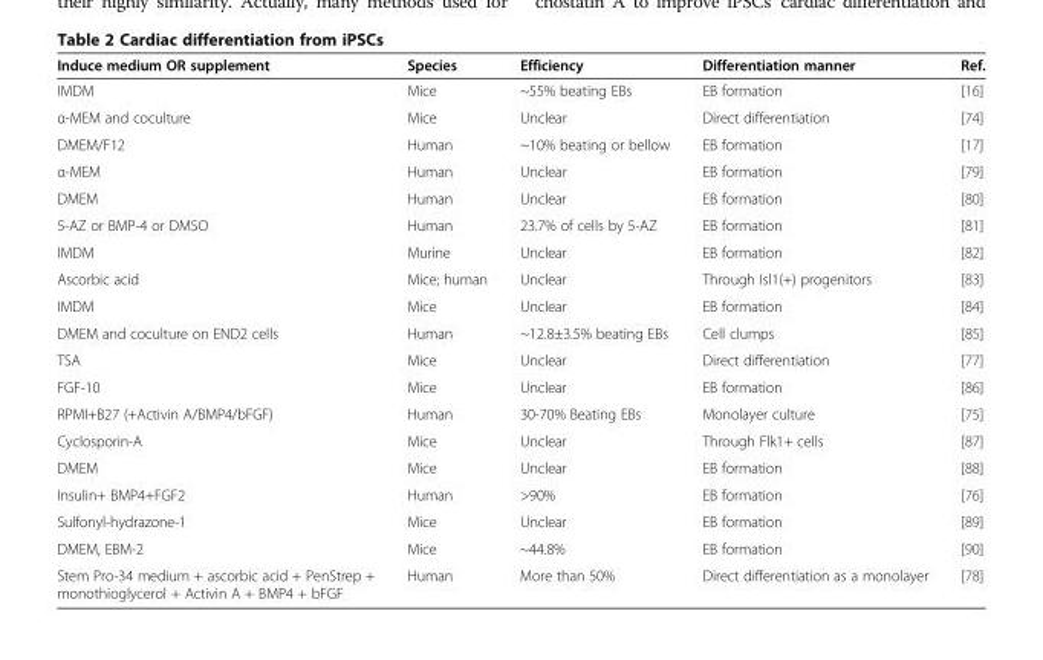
<table><thead><tr><td>Induce medium OR supplement</td><td>Species</td><td>Efficiency</td><td>Differentiation manner</td><td>Ref.</td></tr></thead><tbody><tr><td>IMDM</td><td>Mice</td><td>~55% beating EBs</td><td>EB formation</td><td>[16]</td></tr><tr><td>α-MEM and coculture</td><td>Mice</td><td>Unclear</td><td>Direct differentiation</td><td>[74]</td></tr><tr><td>DMEM/F12</td><td>Human</td><td>~10% beating or bellow</td><td>EB formation</td><td>[17]</td></tr><tr><td>α-MEM</td><td>Human</td><td>Unclear</td><td>EB formation</td><td>[79]</td></tr><tr><td>DMEM</td><td>Human</td><td>Unclear</td><td>EB formation</td><td>[80]</td></tr><tr><td>5-AZ or BMP-4 or DMSO</td><td>Human</td><td>23.7% of cells by 5-AZ</td><td>EB formation</td><td>[81]</td></tr><tr><td>IMDM</td><td>Murine</td><td>Unclear</td><td>EB formation</td><td>[82]</td></tr><tr><td>Ascorbic acid</td><td>Mice; human</td><td>Unclear</td><td>Through Isl1(+) progenitors</td><td>[83]</td></tr><tr><td>IMDM</td><td>Mice</td><td>Unclear</td><td>EB formation</td><td>[84]</td></tr><tr><td>DMEM and coculture on END2 cells</td><td>Human</td><td>~12.8±3.5% beating EBs</td><td>Cell clumps</td><td>[85]</td></tr><tr><td>TSA</td><td>Mice</td><td>Unclear</td><td>Direct differentiation</td><td>[77]</td></tr><tr><td>FGF-10</td><td>Mice</td><td>Unclear</td><td>EB formation</td><td>[86]</td></tr><tr><td>RPMI+B27 (+Activin A/BMP4/bFGF)</td><td>Human</td><td>30-70% Beating EBs</td><td>Monolayer culture</td><td>[75]</td></tr><tr><td>Cyclosporin-A</td><td>Mice</td><td>Unclear</td><td>Through Flk1+ cells</td><td>[87]</td></tr><tr><td>DMEM</td><td>Mice</td><td>Unclear</td><td>EB formation</td><td>[88]</td></tr><tr><td>Insulin+ BMP4+FGF2</td><td>Human</td><td>&gt;90%</td><td>EB formation</td><td>[76]</td></tr><tr><td>Sulfonyl-hydrazone-1</td><td>Mice</td><td>Unclear</td><td>EB formation</td><td>[89]</td></tr><tr><td>DMEM, EBM-2</td><td>Mice</td><td>~44.8%</td><td>EB formation</td><td>[90]</td></tr><tr><td>Stem Pro-34 medium + ascorbic acid + PenStrep + monothioglycerol + Activin A + BMP4 + bFGF</td><td>Human</td><td>More than 50%</td><td>Direct differentiation as a monolayer</td><td>[78]</td></tr></tbody></table>